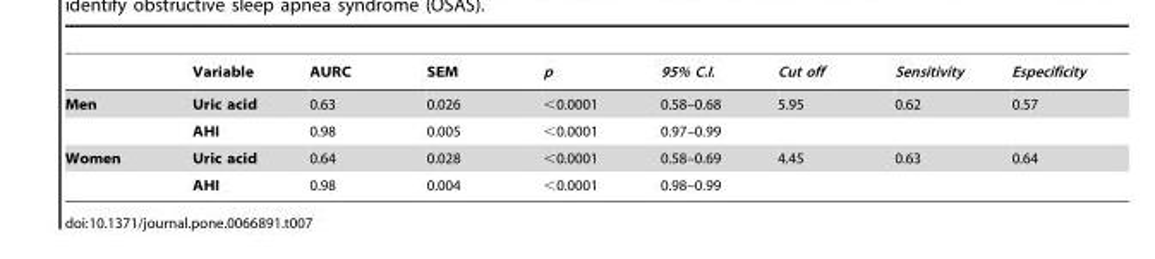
<table><thead><tr><td></td><td>Variable</td><td>AURC</td><td>SEM</td><td>p</td><td>95% C.I.</td><td>Cut off</td><td>Sensitivity</td><td>Especificity</td></tr></thead><tbody><tr><td rowspan="2">Men</td><td>Uric acid</td><td>0.63</td><td>0.026</td><td>&lt;0.0001</td><td>0.58–0.68</td><td>5.95</td><td>0.62</td><td>0.57</td></tr><tr><td>AHI</td><td>0.98</td><td>0.005</td><td>&lt;0.0001</td><td>0.97–0.99</td><td></td><td></td><td></td></tr><tr><td rowspan="2">Women</td><td>Uric acid</td><td>0.64</td><td>0.028</td><td>&lt;0.0001</td><td>0.58–0.69</td><td>4.45</td><td>0.63</td><td>0.64</td></tr><tr><td>AHI</td><td>0.98</td><td>0.004</td><td>&lt;0.0001</td><td>0.98–0.99</td><td></td><td></td><td></td></tr></tbody></table>